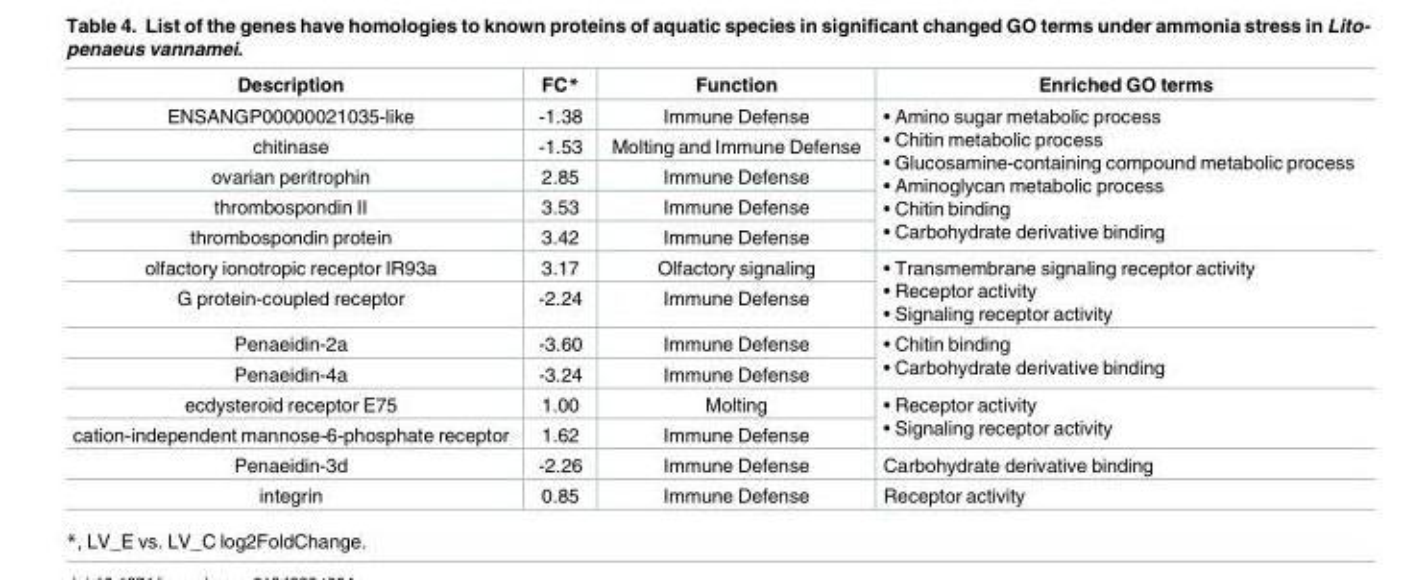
<table><thead><tr><td>Description</td><td>FC*</td><td>Function</td><td>Enriched GO terms</td></tr></thead><tbody><tr><td>ENSANGP00000021035-like</td><td>-1.38</td><td>Immune Defense</td><td rowspan="5">• Amino sugar metabolic process • Chitin metabolic process • Glucosamine-containing compound metabolic process • Aminoglycan metabolic process • Chitin binding • Carbohydrate derivative binding</td></tr><tr><td>chitinase</td><td>-1.53</td><td>Molting and Immune Defense</td></tr><tr><td>ovarian peritrophin</td><td>2.85</td><td>Immune Defense</td></tr><tr><td>thrombospondin II</td><td>3.53</td><td>Immune Defense</td></tr><tr><td>thrombospondin protein</td><td>3.42</td><td>Immune Defense</td></tr><tr><td>olfactory ionotropic receptor IR93a</td><td>3.17</td><td>Olfactory signaling</td><td rowspan="2">• Transmembrane signaling receptor activity • Receptor activity • Signaling receptor activity</td></tr><tr><td>G protein-coupled receptor</td><td>-2.24</td><td>Immune Defense</td></tr><tr><td>Penaeidin-2a</td><td>-3.60</td><td>Immune Defense</td><td rowspan="2">• Chitin binding • Carbohydrate derivative binding</td></tr><tr><td>Penaeidin-4a</td><td>-3.24</td><td>Immune Defense</td></tr><tr><td>ecdysteroid receptor E75</td><td>1.00</td><td>Molting</td><td rowspan="2">• Receptor activity • Signaling receptor activity</td></tr><tr><td>cation-independent mannose-6-phosphate receptor</td><td>1.62</td><td>Immune Defense</td></tr><tr><td>Penaeidin-3d</td><td>-2.26</td><td>Immune Defense</td><td>Carbohydrate derivative binding</td></tr><tr><td>integrin</td><td>0.85</td><td>Immune Defense</td><td>Receptor activity</td></tr></tbody></table>